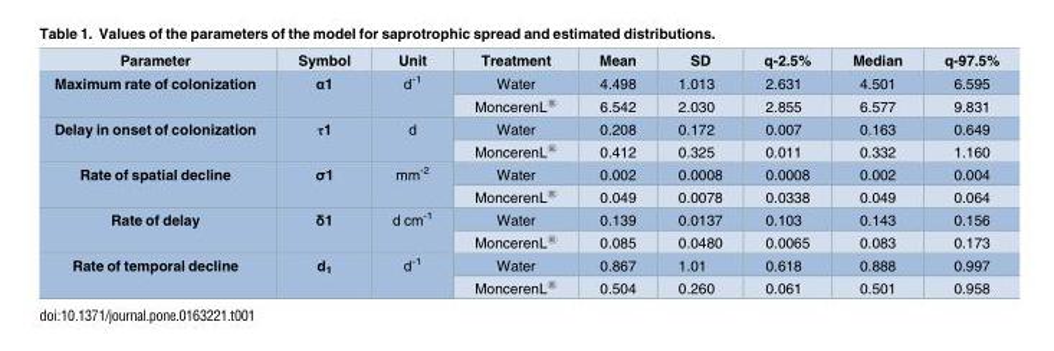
<table><thead><tr><td>Parameter</td><td>Symbol</td><td>Unit</td><td>Treatment</td><td>Mean</td><td>SD</td><td>q-2.5%</td><td>Median</td><td>q-97.5%</td></tr></thead><tbody><tr><td rowspan="2">Maximum rate of colonization</td><td rowspan="2">α1</td><td rowspan="2">d<sup>-1</sup></td><td>Water</td><td>4.498</td><td>1.013</td><td>2.631</td><td>4.501</td><td>6.595</td></tr><tr><td>MoncerenL<sup>®</sup></td><td>6.542</td><td>2.030</td><td>2.855</td><td>6.577</td><td>9.831</td></tr><tr><td rowspan="2">Delay in onset of colonization</td><td rowspan="2">τ1</td><td rowspan="2">d</td><td>Water</td><td>0.208</td><td>0.172</td><td>0.007</td><td>0.163</td><td>0.649</td></tr><tr><td>MoncerenL<sup>®</sup></td><td>0.412</td><td>0.325</td><td>0.011</td><td>0.332</td><td>1.160</td></tr><tr><td rowspan="2">Rate of spatial decline</td><td rowspan="2">σ1</td><td rowspan="2">mm<sup>-2</sup></td><td>Water</td><td>0.002</td><td>0.0008</td><td>0.0008</td><td>0.002</td><td>0.004</td></tr><tr><td>MoncerenL<sup>®</sup></td><td>0.049</td><td>0.0078</td><td>0.0338</td><td>0.049</td><td>0.064</td></tr><tr><td rowspan="2">Rate of delay</td><td rowspan="2">δ1</td><td rowspan="2">d cm<sup>-1</sup></td><td>Water</td><td>0.139</td><td>0.0137</td><td>0.103</td><td>0.143</td><td>0.156</td></tr><tr><td>MoncerenL<sup>®</sup></td><td>0.085</td><td>0.0480</td><td>0.0065</td><td>0.083</td><td>0.173</td></tr><tr><td rowspan="2">Rate of temporal decline</td><td rowspan="2">d<sub>1</sub></td><td rowspan="2">d<sup>-1</sup></td><td>Water</td><td>0.867</td><td>1.01</td><td>0.618</td><td>0.888</td><td>0.997</td></tr><tr><td>MoncerenL<sup>®</sup></td><td>0.504</td><td>0.260</td><td>0.061</td><td>0.501</td><td>0.958</td></tr></tbody></table>